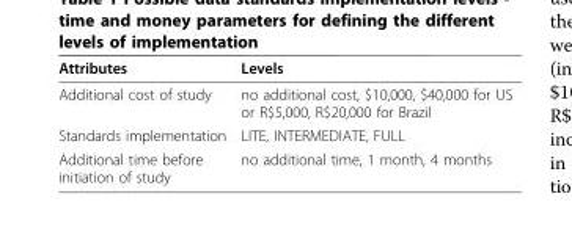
<table><thead><tr><td>Attributes</td><td>Levels</td></tr></thead><tbody><tr><td>Additional cost of study</td><td>no additional cost, $10,000, $40,000 for US or R$5,000, R$20,000 for Brazil</td></tr><tr><td>Standards implementation</td><td>LITE, INTERMEDIATE, FULL</td></tr><tr><td>Additional time before initiation of study</td><td>no additional time, 1 month, 4 months</td></tr></tbody></table>